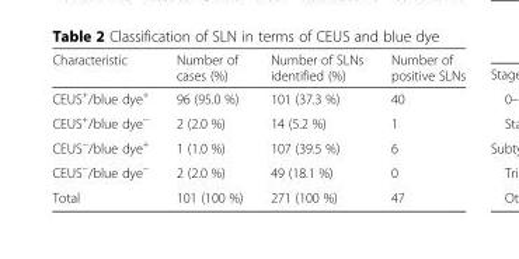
<table><thead><tr><td>Characteristic</td><td>Number of cases (%)</td><td>Number of SLNs identified (%)</td><td>Number of positive SLNs</td></tr></thead><tbody><tr><td>CEUS<sup>+</sup>/blue dye<sup>+</sup></td><td>96 (95.0 %)</td><td>101 (37.3 %)</td><td>40</td></tr><tr><td>CEUS<sup>+</sup>/blue dye<sup>−</sup></td><td>2 (2.0 %)</td><td>14 (5.2 %)</td><td>1</td></tr><tr><td>CEUS<sup>−</sup>/blue dye<sup>+</sup></td><td>1 (1.0 %)</td><td>107 (39.5 %)</td><td>6</td></tr><tr><td>CEUS<sup>−</sup>/blue dye<sup>−</sup></td><td>2 (2.0 %)</td><td>49 (18.1 %)</td><td>0</td></tr><tr><td>Total</td><td>101 (100 %)</td><td>271 (100 %)</td><td>47</td></tr></tbody></table>